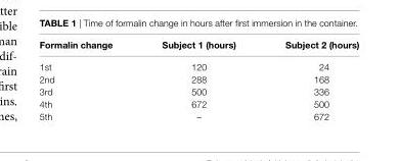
<table><thead><tr><td>Formalin change</td><td>subject 1 (hours)</td><td>subject 2 (hours)</td></tr></thead><tbody><tr><td>1st</td><td>120</td><td>24</td></tr><tr><td>2nd</td><td>288</td><td>168</td></tr><tr><td>3rd</td><td>500</td><td>336</td></tr><tr><td>4th</td><td>672</td><td>500</td></tr><tr><td>5th</td><td>–</td><td>672</td></tr></tbody></table>